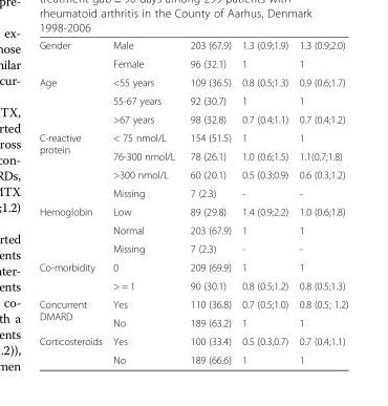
<table><tbody><tr><td rowspan="2">Gender</td><td>Male</td><td>203 (67.9)</td><td>1.3 (0.9;1.9)</td><td>1.3 (0.9;2.0)</td></tr><tr><td>Female</td><td>96 (32.1)</td><td>1</td><td>1</td></tr><tr><td rowspan="3">Age</td><td>&lt;55 years</td><td>109 (36.5)</td><td>0.8 (0.5;1.3)</td><td>0.9 (0.6;1.7)</td></tr><tr><td>55-67 years</td><td>92 (30.7)</td><td>1</td><td>1</td></tr><tr><td>&gt;67 years</td><td>98 (32.8)</td><td>0.7 (0.4;1.1)</td><td>0.7 (0.4;1.2)</td></tr><tr><td rowspan="4">C-reactive protein</td><td>&lt; 75 nmol/L</td><td>154 (51.5)</td><td>1</td><td>1</td></tr><tr><td>76-300 nmol/L</td><td>78 (26.1)</td><td>1.0 (0.6;1.5)</td><td>1.1(0.7;1.8)</td></tr><tr><td>&gt;300 nmol/L</td><td>60 (20.1)</td><td>0.5 (0.3;0.9)</td><td>0.6 (0.3;1.2)</td></tr><tr><td>Missing</td><td>7 (2.3)</td><td>-</td><td>-</td></tr><tr><td rowspan="3">Hemoglobin</td><td>Low</td><td>89 (29.8)</td><td>1.4 (0.9;2.2)</td><td>1.0 (0.6;1.8)</td></tr><tr><td>Normal</td><td>203 (67.9)</td><td>1</td><td>1</td></tr><tr><td>Missing</td><td>7 (2.3)</td><td>-</td><td>-</td></tr><tr><td rowspan="2">Co-morbidity</td><td>0</td><td>209 (69.9)</td><td>1</td><td>1</td></tr><tr><td>&gt; = 1</td><td>90 (30.1)</td><td>0.8 (0.5;1.2)</td><td>0.8 (0.5;1.3)</td></tr><tr><td rowspan="2">Concurrent DMARD</td><td>Yes</td><td>110 (36.8)</td><td>0.7 (0.5;1.0)</td><td>0.8 (0.5; 1.2)</td></tr><tr><td>No</td><td>189 (63.2)</td><td>1</td><td>1</td></tr><tr><td rowspan="2">Corticosteroids</td><td>Yes</td><td>100 (33.4)</td><td>0.5 (0.3,0.7)</td><td>0.7 (0.4;1.1)</td></tr><tr><td>No</td><td>189 (66.6)</td><td>1</td><td>1</td></tr></tbody></table>